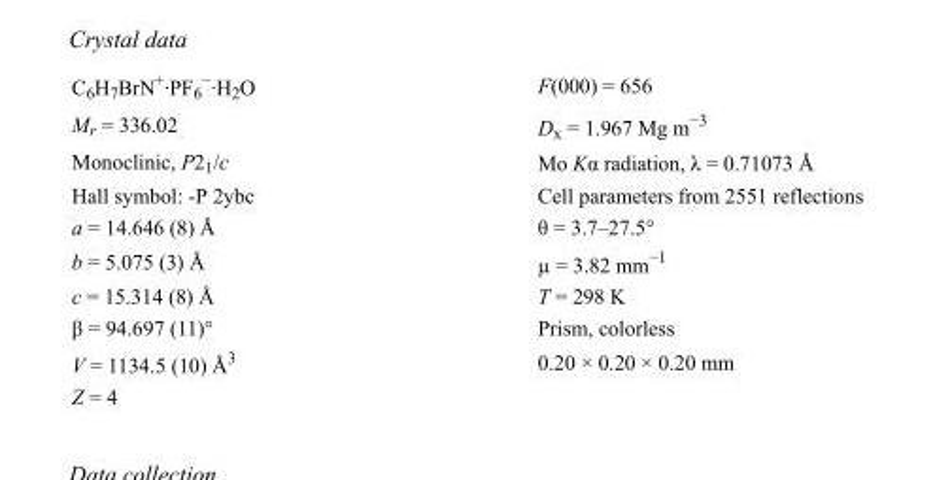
<table><tbody><tr><td>C<sub>6</sub>H<sub>7</sub>BrN<sup>+</sup>·PF<sub>6</sub> <sup>−</sup>·H<sub>2</sub>O</td><td>F(000) = 656</td></tr><tr><td>M<sub>r</sub> = 336.02</td><td>D<sub>x</sub> = 1.967 Mg m<sup>−3</sup></td></tr><tr><td>Monoclinic, P2<sub>1</sub>/c</td><td>Mo Kα radiation, λ = 0.71073 Å</td></tr><tr><td>Hall symbol: -P 2ybc</td><td>Cell parameters from 2551 reflections</td></tr><tr><td>a = 14.646 (8) Å</td><td>θ = 3.7–27.5°</td></tr><tr><td>b = 5.075 (3) Å</td><td>µ = 3.82 mm<sup>−1</sup></td></tr><tr><td>c = 15.314 (8) Å</td><td>T = 298 K</td></tr><tr><td>β = 94.697 (11)°</td><td>Prism, colorless</td></tr><tr><td>V = 1134.5 (10) Å<sup>3</sup></td><td>0.20 × 0.20 × 0.20 mm</td></tr><tr><td>Z = 4</td><td></td></tr></tbody></table>